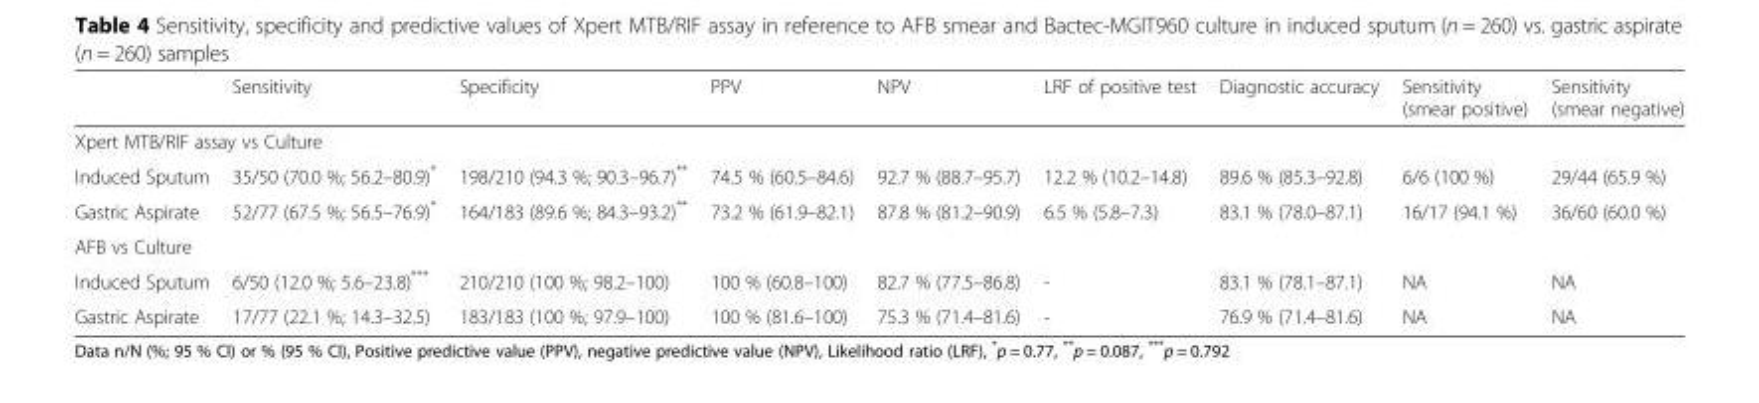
<table><thead><tr><td></td><td>Sensitivity</td><td>Specificity</td><td>PPV</td><td>NPV</td><td>LRF of positive test</td><td>Diagnostic accuracy</td><td>Sensitivity (smear positive)</td><td>Sensitivity (smear negative)</td></tr></thead><tbody><tr><td colspan="9">Xpert MTB/RIF assay vs Culture</td></tr><tr><td>Induced Sputum</td><td>35/50 (70.0 %; 56.2–80.9)*</td><td>198/210 (94.3 %; 90.3–96.7)**</td><td>74.5 % (60.5–84.6)</td><td>92.7 % (88.7–95.7)</td><td>12.2 % (10.2–14.8)</td><td>89.6 % (85.3–92.8)</td><td>6/6 (100 %)</td><td>29/44 (65.9 %)</td></tr><tr><td>Gastric Aspirate</td><td>52/77 (67.5 %; 56.5–76.9)*</td><td>164/183 (89.6 %; 84.3–93.2)**</td><td>73.2 % (61.9–82.1)</td><td>87.8 % (81.2–90.9)</td><td>6.5 % (5.8–7.3)</td><td>83.1 % (78.0–87.1)</td><td>16/17 (94.1 %)</td><td>36/60 (60.0 %)</td></tr><tr><td colspan="9">AFB vs Culture</td></tr><tr><td>Induced Sputum</td><td>6/50 (12.0 %; 5.6–23.8)***</td><td>210/210 (100 %; 98.2–100)</td><td>100 % (60.8–100)</td><td>82.7 % (77.5–86.8)</td><td>-</td><td>83.1 % (78.1–87.1)</td><td>NA</td><td>NA</td></tr><tr><td>Gastric Aspirate</td><td>17/77 (22.1 %; 14.3–32.5)</td><td>183/183 (100 %; 97.9–100)</td><td>100 % (81.6–100)</td><td>75.3 % (71.4–81.6)</td><td>-</td><td>76.9 % (71.4–81.6)</td><td>NA</td><td>NA</td></tr></tbody></table>